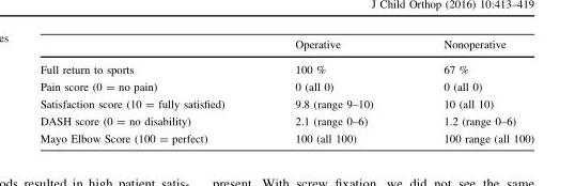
<table><thead><tr><td></td><td>Operative</td><td>Nonoperative</td></tr></thead><tbody><tr><td>Full return to sports</td><td>100 %</td><td>67 %</td></tr><tr><td>Pain score (0 = no pain)</td><td>0 (all 0)</td><td>0 (all 0)</td></tr><tr><td>Satisfaction score (10 = fully satisfied)</td><td>9.8 (range 9–10)</td><td>10 (all 10)</td></tr><tr><td>DASH score (0 = no disability)</td><td>2.1 (range 0–6)</td><td>1.2 (range 0–6)</td></tr><tr><td>Mayo Elbow Score (100 = perfect)</td><td>100 (all 100)</td><td>100 range (all 100)</td></tr></tbody></table>